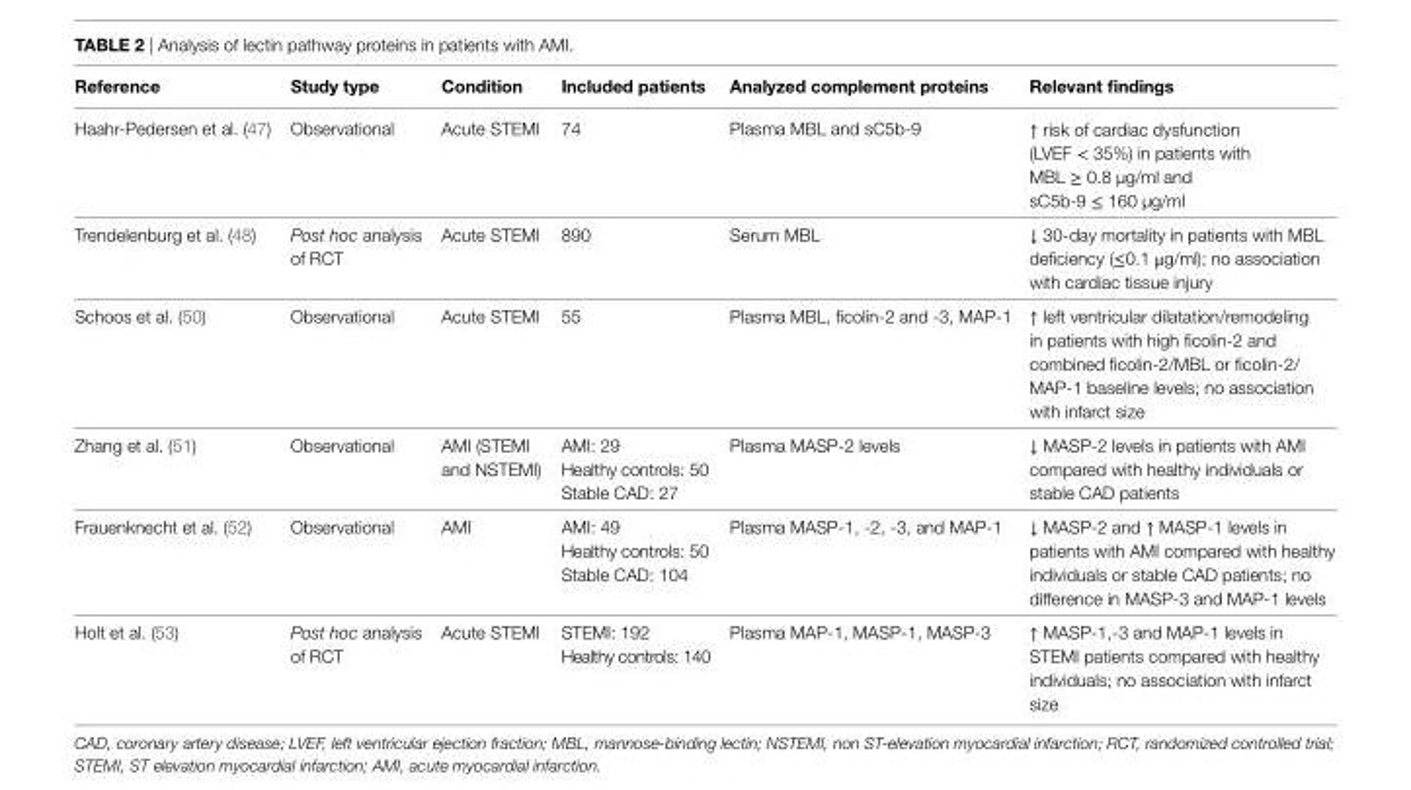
<table><thead><tr><td>Reference</td><td>Study type</td><td>Condition</td><td>included patients</td><td>Analyzed complement proteins</td><td>Relevant findings</td></tr></thead><tbody><tr><td>Haahr-Pedersen et al. (47)</td><td>Observational</td><td>Acute STEMI</td><td>74</td><td>Plasma MBL and sC5b-9</td><td>↑ risk of cardiac dysfunction (LVEF &lt; 35%) in patients with MBL ≥ 0.8 µg/ml and sC5b-9 ≤ 160 µg/ml</td></tr><tr><td>Trendelenburg et al. (48)</td><td>Post hoc analysis of RCT</td><td>Acute STEMI</td><td>890</td><td>Serum MBL</td><td>↓ 30-day mortality in patients with MBL deficiency (≤0.1 μg/ml); no association with cardiac tissue injury</td></tr><tr><td>Schoos et al. (50)</td><td>Observational</td><td>Acute STEMI</td><td>55</td><td>Plasma MBL, ficolin-2 and -3, MAP-1</td><td>↑ left ventricular dilatation/remodeling in patients with high ficolin-2 and combined ficolin-2/MBL or ficolin-2/ MAP-1 baseline levels; no association with infarct size</td></tr><tr><td>Zhang et al. (51)</td><td>Observational</td><td>AMI (STEMI and NSTEMI)</td><td>AMI: 29 Healthy controls: 50 Stable CAD: 27</td><td>Plasma MASP-2 levels</td><td>↓ MASP-2 levels in patients with AMI compared with healthy individuals or stable CAD patients</td></tr><tr><td>Frauenknecht et al. (52)</td><td>Observational</td><td>AMI</td><td>AMI: 49 Healthy controls: 50 Stable CAD: 104</td><td>Plasma MASP-1, -2, -3, and MAP-1</td><td>↓ MASP-2 and ↑ MASP-1 levels in patients with AMI compared with healthy individuals or stable CAD patients; no difference in MASP-3 and MAP-1 levels</td></tr><tr><td>Holt et al. (53)</td><td>Post hoc analysis of RCT</td><td>Acute STEMI</td><td>STEMI: 192 Healthy controls: 140</td><td>Plasma MAP-1, MASP-1, MASP-3</td><td>↑ MASP-1,-3 and MAP-1 levels in STEMI patients compared with healthy individuals; no association with infarct size</td></tr></tbody></table>